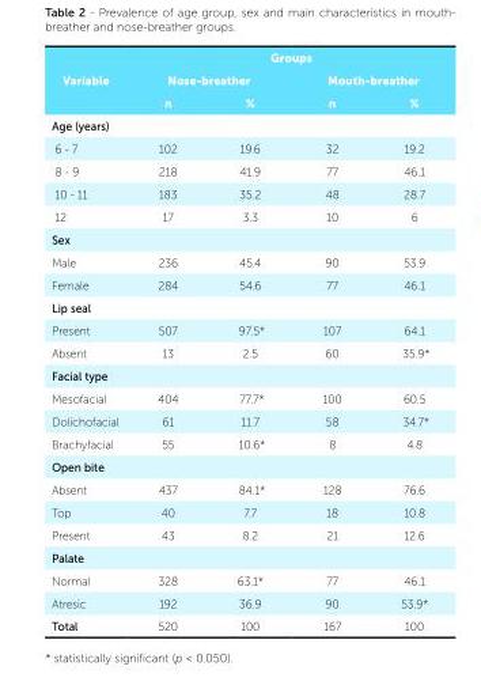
<table><thead><tr><td rowspan="3">Variable</td><td colspan="4">Groups</td></tr><tr><td colspan="2">Nose-breather</td><td colspan="2">Mouth-breather</td></tr><tr><td>n</td><td>%</td><td>n</td><td>%</td></tr></thead><tbody><tr><td colspan="5">Age (years)</td></tr><tr><td>6 - 7</td><td>102</td><td>19.6</td><td>32</td><td>19.2</td></tr><tr><td>8 - 9</td><td>218</td><td>41.9</td><td>77</td><td>46.1</td></tr><tr><td>10 - 11</td><td>183</td><td>35.2</td><td>48</td><td>28.7</td></tr><tr><td>12</td><td>17</td><td>3.3</td><td>10</td><td>6</td></tr><tr><td colspan="5">Sex</td></tr><tr><td>Male</td><td>236</td><td>45.4</td><td>90</td><td>53.9</td></tr><tr><td>Female</td><td>284</td><td>54.6</td><td>77</td><td>46.1</td></tr><tr><td colspan="5">Lip seal</td></tr><tr><td>Present</td><td>507</td><td>97.5*</td><td>107</td><td>64.1</td></tr><tr><td>Absent</td><td>13</td><td>2.5</td><td>60</td><td>35.9*</td></tr><tr><td colspan="5">Facial type</td></tr><tr><td>Mesofacial</td><td>404</td><td>77.7*</td><td>100</td><td>60.5</td></tr><tr><td>Dolichofacial</td><td>61</td><td>11.7</td><td>58</td><td>34.7*</td></tr><tr><td>Brachyfacial</td><td>55</td><td>10.6*</td><td>8</td><td>4.8</td></tr><tr><td colspan="5">Open bite</td></tr><tr><td>Absent</td><td>437</td><td>84.1*</td><td>128</td><td>76.6</td></tr><tr><td>Top</td><td>40</td><td>7.7</td><td>18</td><td>10.8</td></tr><tr><td>Present</td><td>43</td><td>8.2</td><td>21</td><td>12.6</td></tr><tr><td colspan="5">Palate</td></tr><tr><td>Normal</td><td>328</td><td>63.1*</td><td>77</td><td>46.1</td></tr><tr><td>Atresic</td><td>192</td><td>36.9</td><td>90</td><td>53.9*</td></tr><tr><td>Total</td><td>520</td><td>100</td><td>167</td><td>100</td></tr></tbody></table>